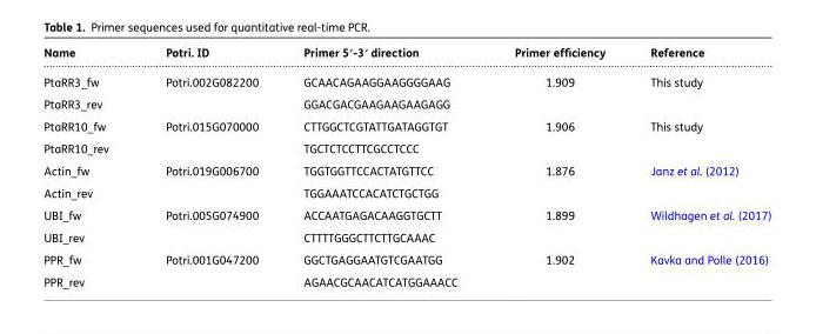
<table><thead><tr><td>Name</td><td>Potri. ID</td><td>Primer 5′-3′ direction</td><td>Primer efficiency</td><td>Reference</td></tr></thead><tbody><tr><td>PtaRR3_fw PtaRR3_rev</td><td>Potri.002G082200</td><td>GCAACAGAAGGAAGGGGAAG GGACGACGAAGAAGAAGAGG</td><td>1.909</td><td>This study</td></tr><tr><td>PtaRR10_fw PtaRR10_rev</td><td>Potri.015G070000</td><td>CTTGGCTCGTATTGATAGGTGT TGCTCTCCTTCGCCTCCC</td><td>1.906</td><td>This study</td></tr><tr><td>Actin_fw Actin_rev</td><td>Potri.019G006700</td><td>TGGTGGTTCCACTATGTTCC TGGAAATCCACATCTGCTGG</td><td>1.876</td><td>Janz et al. (2012)</td></tr><tr><td>UBI_fw UBI_rev</td><td>Potri.005G074900</td><td>ACCAATGAGACAAGGTGCTT CTTTTGGGCTTCTTGCAAAC</td><td>1.899</td><td>Wildhagen et al. (2017)</td></tr><tr><td>PPR_fw PPR_rev</td><td>Potri.001G047200</td><td>GGCTGAGGAATGTCGAATGG AGAACGCAACATCATGGAAACC</td><td>1.902</td><td>Kavka and Polle (2016)</td></tr></tbody></table>